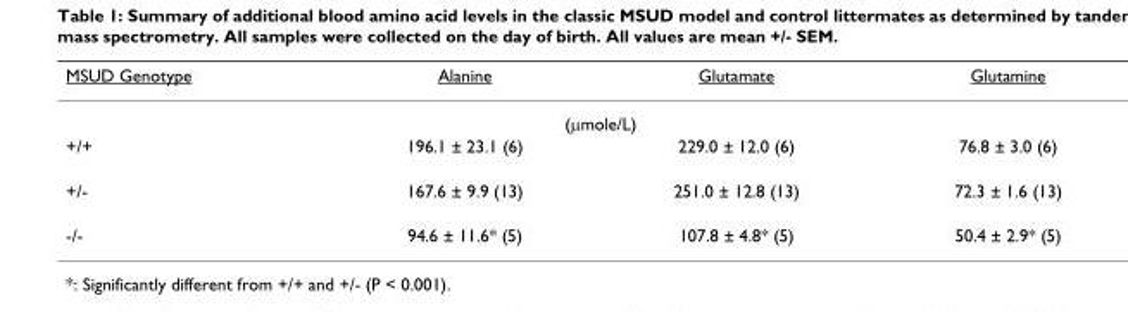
<table><thead><tr><td>MSUD Genotype</td><td>Alanine</td><td>Glutamate</td><td>Glutamine</td></tr></thead><tbody><tr><td colspan="4">(µmole/L)</td></tr><tr><td>+/+</td><td>196.1 ± 23.1 (6)</td><td>229.0 ± 12.0 (6)</td><td>76.8 ± 3.0 (6)</td></tr><tr><td>+/-</td><td>167.6 ± 9.9 (13)</td><td>251.0 ± 12.8 (13)</td><td>72.3 ± 1.6 (13)</td></tr><tr><td>-/-</td><td>94.6 ± 11.6* (5)</td><td>107.8 ± 4.8* (5)</td><td>50.4 ± 2.9* (5)</td></tr></tbody></table>